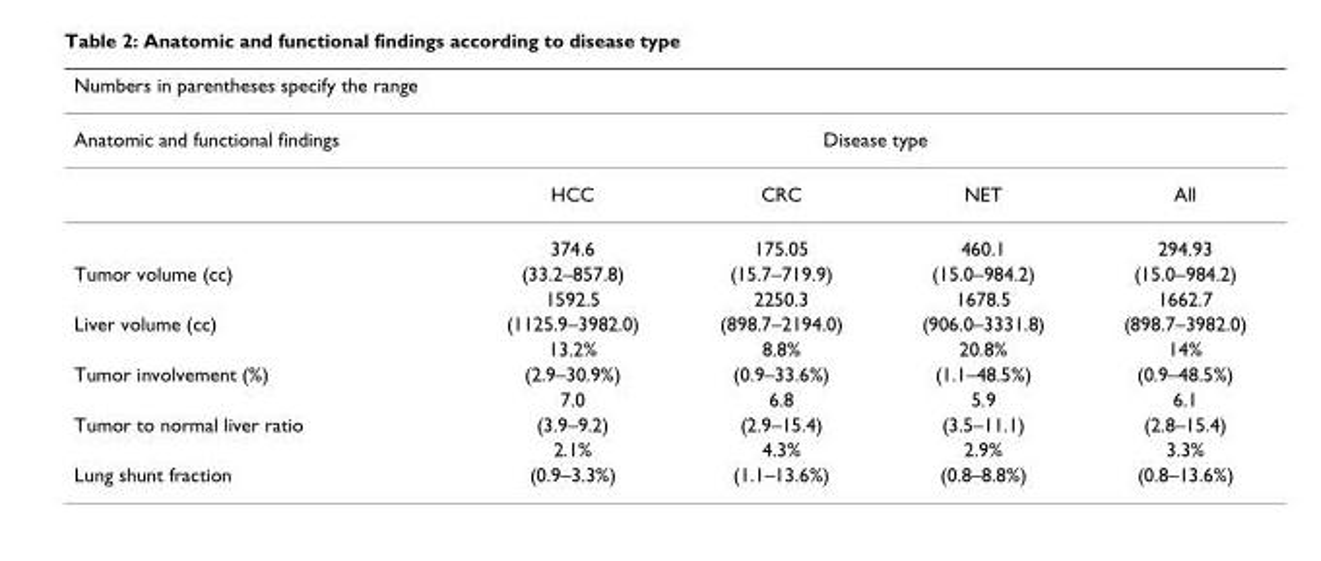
<table><thead><tr><td colspan="5">Numbers in parentheses specify the range</td></tr><tr><td rowspan="2">Anatomic and functional findings</td><td colspan="4">Disease type</td></tr><tr><td>HCC</td><td>CRC</td><td>NET</td><td>All</td></tr></thead><tbody><tr><td></td><td>374.6</td><td>175.05</td><td>460.1</td><td>294.93</td></tr><tr><td rowspan="2">Tumor volume (cc)</td><td>(33.2–857.8)</td><td>(15.7–719.9)</td><td>(15.0–984.2)</td><td>(15.0–984.2)</td></tr><tr><td>1592.5</td><td>2250.3</td><td>1678.5</td><td>1662.7</td></tr><tr><td rowspan="2">Liver volume (cc)</td><td>(1125.9–3982.0)</td><td>(898.7–2194.0)</td><td>(906.0–3331.8)</td><td>(898.7–3982.0)</td></tr><tr><td>13.2%</td><td>8.8%</td><td>20.8%</td><td>14%</td></tr><tr><td rowspan="2">Tumor involvement (%)</td><td>(2.9–30.9%)</td><td>(0.9–33.6%)</td><td>(1.1–48.5%)</td><td>(0.9–48.5%)</td></tr><tr><td>7.0</td><td>6.8</td><td>5.9</td><td>6.1</td></tr><tr><td rowspan="2">Tumor to normal liver ratio</td><td>(3.9–9.2)</td><td>(2.9–15.4)</td><td>(3.5–11.1)</td><td>(2.8–15.4)</td></tr><tr><td>2.1%</td><td>4.3%</td><td>2.9%</td><td>3.3%</td></tr><tr><td>Lung shunt fraction</td><td>(0.9–3.3%)</td><td>(1.1–13.6%)</td><td>(0.8–8.8%)</td><td>(0.8–13.6%)</td></tr></tbody></table>